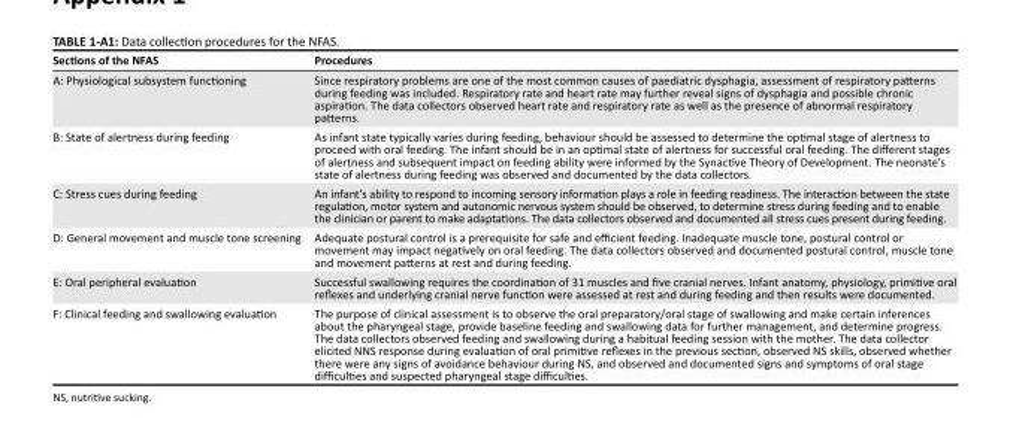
<table><thead><tr><td>Sections of the NFAS</td><td>Procedures</td></tr></thead><tbody><tr><td>A: Physiological subsystem functioning</td><td>Since respiratory problems are one of the most common causes of paediatric dysphagia, assessment of respiratory patterns during feeding was included. Respiratory rate and heart rate may further reveal signs of dysphagia and possible chronic aspiration. The data collectors observed heart rate and respiratory rate as well as the presence of abnormal respiratory patterns.</td></tr><tr><td>B: State of alertness during feeding</td><td>As infant state typically varies during feeding, behaviour should be assessed to determine the optimal stage of alertness to proceed with oral feeding. The infant should be in an optimal state of alertness for successful oral feeding. The different stages of alertness and subsequent impact on feeding ability were informed by the Synactive Theory of Development. The neonate’s state of alertness during feeding was observed and documented by the data collectors.</td></tr><tr><td>C: Stress cues during feeding</td><td>An infant’s ability to respond to incoming sensory information plays a role in feeding readiness. The interaction between the state regulation, motor system and autonomic nervous system should be observed, to determine stress during feeding and to enable the clinician or parent to make adaptations. The data collectors observed and documented all stress cues present during feeding.</td></tr><tr><td>D: General movement and muscle tone screening</td><td>Adequate postural control is a prerequisite for safe and efficient feeding. Inadequate muscle tone, postural control or movement may impact negatively on oral feeding. The data collectors observed and documented postural control, muscle tone and movement patterns at rest and during feeding.</td></tr><tr><td>E: Oral peripheral evaluation</td><td>Successful swallowing requires the coordination of 31 muscles and five cranial nerves. Infant anatomy, physiology, primitive oral reflexes and underlying cranial nerve function were assessed at rest and during feeding and then results were documented.</td></tr><tr><td>F: Clinical feeding and swallowing evaluation</td><td>The purpose of clinical assessment is to observe the oral preparatory/oral stage of swallowing and make certain inferences about the pharyngeal stage, provide baseline feeding and swallowing data for further management, and determine progress. The data collectors observed feeding and swallowing during a habitual feeding session with the mother. The data collector elicited NNS response during evaluation of oral primitive reflexes in the previous section, observed NS skills, observed whether there were any signs of avoidance behaviour during NS, and observed and documented signs and symptoms of oral stage difficulties and suspected pharyngeal stage difficulties.</td></tr></tbody></table>